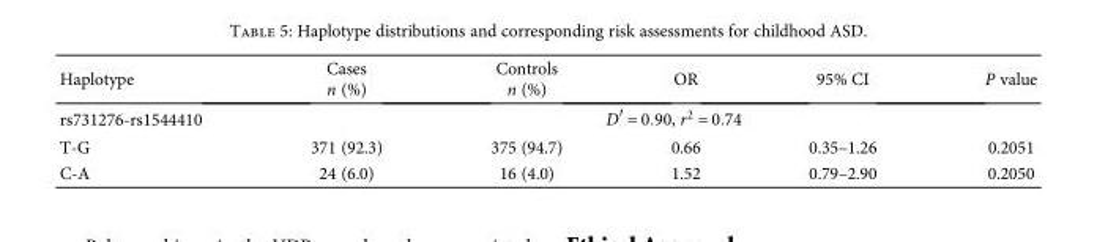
<table><thead><tr><td>Haplotype</td><td>Cases n (%)</td><td>Controls n (%)</td><td>OR</td><td>95% CI</td><td>P value</td></tr></thead><tbody><tr><td>rs731276-rs1544410</td><td colspan="5">D′ = 0 90, r2 = 0 74</td></tr><tr><td>T-G</td><td>371 (92.3)</td><td>375 (94.7)</td><td>0.66</td><td>0.35–1.26</td><td>0.2051</td></tr><tr><td>C-A</td><td>24 (6.0)</td><td>16 (4.0)</td><td>1.52</td><td>0.79–2.90</td><td>0.2050</td></tr></tbody></table>